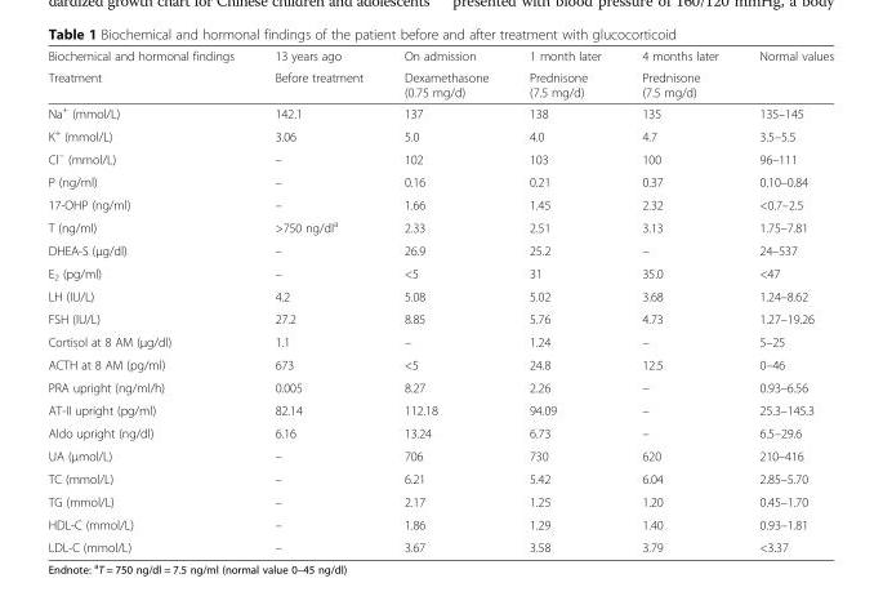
<table><thead><tr><td rowspan="2">Biochemical and hormonal findings Treatment</td><td rowspan="2">13 years ago Before treatment</td><td rowspan="2">On admission Dexamethasone (0.75 mg/d)</td><td rowspan="2">1 month later Prednisone (7.5 mg/d)</td><td rowspan="2">4 months later Prednisone (7.5 mg/d)</td><td rowspan="2">Normal values</td></tr><tr></tr></thead><tbody><tr><td>Na<sup>+</sup> (mmol/L)</td><td>142.1</td><td>137</td><td>138</td><td>135</td><td>135–145</td></tr><tr><td>K<sup>+</sup> (mmol/L)</td><td>3.06</td><td>5.0</td><td>4.0</td><td>4.7</td><td>3.5–5.5</td></tr><tr><td>Cl<sup>−</sup> (mmol/L)</td><td>–</td><td>102</td><td>103</td><td>100</td><td>96–111</td></tr><tr><td>P (ng/ml)</td><td>–</td><td>0.16</td><td>0.21</td><td>0.37</td><td>0.10–0.84</td></tr><tr><td>17-OHP (ng/ml)</td><td>–</td><td>1.66</td><td>1.45</td><td>2.32</td><td>&lt;0.7–2.5</td></tr><tr><td>T (ng/ml)</td><td>&gt;750 ng/dl<sup>a</sup></td><td>2.33</td><td>2.51</td><td>3.13</td><td>1.75–7.81</td></tr><tr><td>DHEA-S (μg/dl)</td><td>–</td><td>26.9</td><td>25.2</td><td>–</td><td>24–537</td></tr><tr><td>E<sub>2</sub> (pg/ml)</td><td>–</td><td>&lt;5</td><td>31</td><td>35.0</td><td>&lt;47</td></tr><tr><td>LH (IU/L)</td><td>4.2</td><td>5.08</td><td>5.02</td><td>3.68</td><td>1.24–8.62</td></tr><tr><td>FSH (IU/L)</td><td>27.2</td><td>8.85</td><td>5.76</td><td>4.73</td><td>1.27–19.26</td></tr><tr><td>Cortisol at 8 AM (μg/dl)</td><td>1.1</td><td>–</td><td>1.24</td><td>–</td><td>5–25</td></tr><tr><td>ACTH at 8 AM (pg/ml)</td><td>673</td><td>&lt;5</td><td>24.8</td><td>12.5</td><td>0–46</td></tr><tr><td>PRA upright (ng/ml/h)</td><td>0.005</td><td>8.27</td><td>2.26</td><td>–</td><td>0.93–6.56</td></tr><tr><td>AT-II upright (pg/ml)</td><td>82.14</td><td>112.18</td><td>94.09</td><td>–</td><td>25.3–145.3</td></tr><tr><td>Aldo upright (ng/dl)</td><td>6.16</td><td>13.24</td><td>6.73</td><td>–</td><td>6.5–29.6</td></tr><tr><td>UA (μmol/L)</td><td>–</td><td>706</td><td>730</td><td>620</td><td>210–416</td></tr><tr><td>TC (mmol/L)</td><td>–</td><td>6.21</td><td>5.42</td><td>6.04</td><td>2.85–5.70</td></tr><tr><td>TG (mmol/L)</td><td>–</td><td>2.17</td><td>1.25</td><td>1.20</td><td>0.45–1.70</td></tr><tr><td>HDL-C (mmol/L)</td><td>–</td><td>1.86</td><td>1.29</td><td>1.40</td><td>0.93–1.81</td></tr><tr><td>LDL-C (mmol/L)</td><td>–</td><td>3.67</td><td>3.58</td><td>3.79</td><td>&lt;3.37</td></tr></tbody></table>